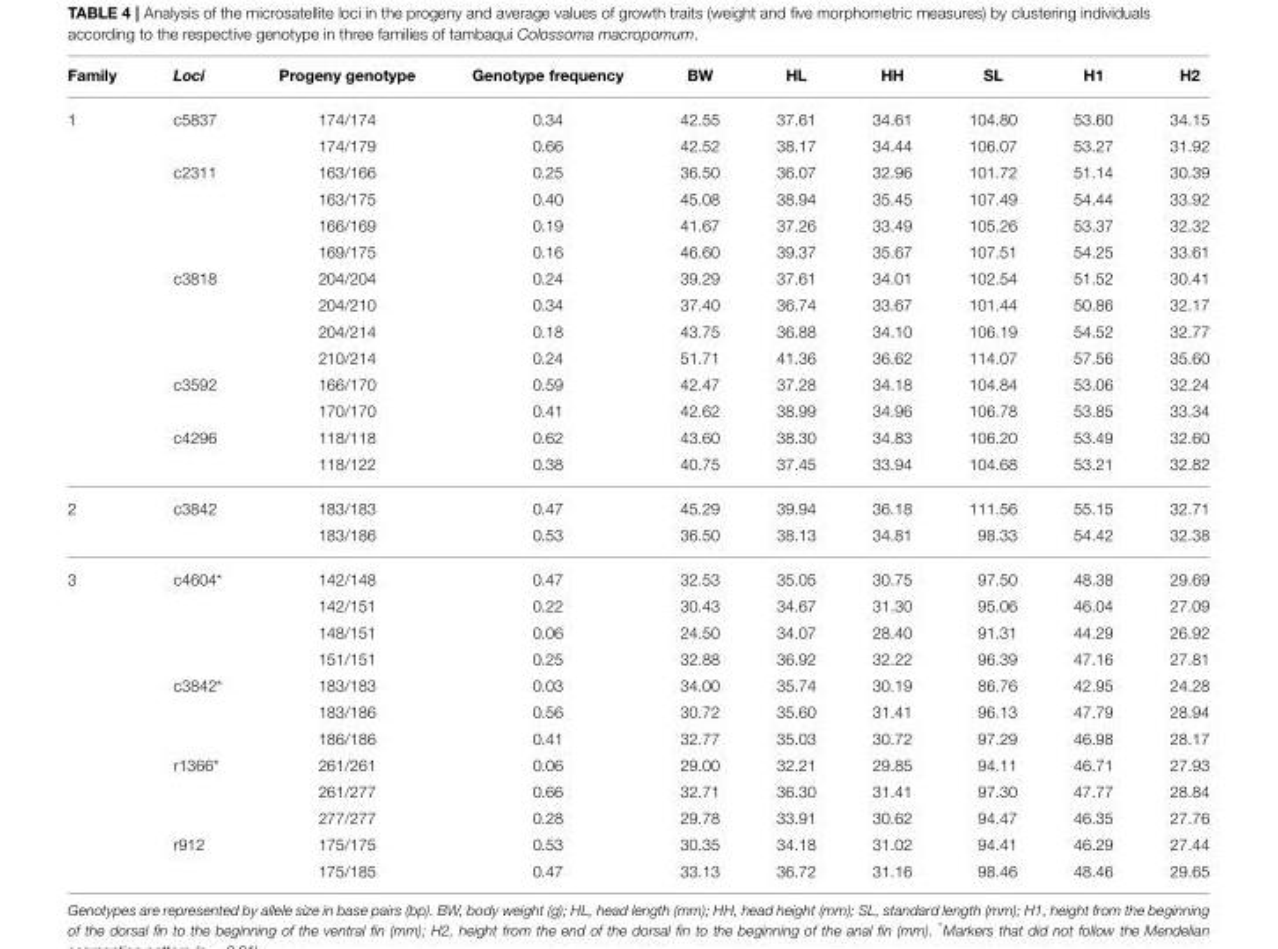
<table><thead><tr><td>Family</td><td>Loci</td><td>Progeny genotype</td><td>Genotype frequency</td><td>BW</td><td>HL</td><td>HH</td><td>SL</td><td>H1</td><td>H2</td></tr></thead><tbody><tr><td rowspan="14">1</td><td>c5837</td><td>174/174</td><td>0.34</td><td>42.55</td><td>37.61</td><td>34.61</td><td>104.80</td><td>53.60</td><td>34.15</td></tr><tr><td></td><td>174/179</td><td>0.66</td><td>42.52</td><td>38.17</td><td>34.44</td><td>106.07</td><td>53.27</td><td>31.92</td></tr><tr><td>c2311</td><td>163/166</td><td>0.25</td><td>36.50</td><td>36.07</td><td>32.96</td><td>101.72</td><td>51.14</td><td>30.39</td></tr><tr><td></td><td>163/175</td><td>0.40</td><td>45.08</td><td>38.94</td><td>35.45</td><td>107.49</td><td>54.44</td><td>33.92</td></tr><tr><td></td><td>166/169</td><td>0.19</td><td>41.67</td><td>37.26</td><td>33.49</td><td>105.26</td><td>53.37</td><td>32.32</td></tr><tr><td></td><td>169/175</td><td>0.16</td><td>46.60</td><td>39.37</td><td>35.67</td><td>107.51</td><td>54.25</td><td>33.61</td></tr><tr><td>c3818</td><td>204/204</td><td>0.24</td><td>39.29</td><td>37.61</td><td>34.01</td><td>102.54</td><td>51.52</td><td>30.41</td></tr><tr><td></td><td>204/210</td><td>0.34</td><td>37.40</td><td>36.74</td><td>33.67</td><td>101.44</td><td>50.86</td><td>32.17</td></tr><tr><td></td><td>204/214</td><td>0.18</td><td>43.75</td><td>36.88</td><td>34.10</td><td>106.19</td><td>54.52</td><td>32.77</td></tr><tr><td></td><td>210/214</td><td>0.24</td><td>51.71</td><td>41.36</td><td>36.62</td><td>114.07</td><td>57.56</td><td>35.60</td></tr><tr><td>c3592</td><td>166/170</td><td>0.59</td><td>42.47</td><td>37.28</td><td>34.18</td><td>104.84</td><td>53.06</td><td>32.24</td></tr><tr><td></td><td>170/170</td><td>0.41</td><td>42.62</td><td>38.99</td><td>34.96</td><td>106.78</td><td>53.85</td><td>33.34</td></tr><tr><td>c4296</td><td>118/118</td><td>0.62</td><td>43.60</td><td>38.30</td><td>34.83</td><td>106.20</td><td>53.49</td><td>32.60</td></tr><tr><td></td><td>118/122</td><td>0.38</td><td>40.75</td><td>37.45</td><td>33.94</td><td>104.68</td><td>53.21</td><td>32.82</td></tr><tr><td rowspan="2">2</td><td>c3842</td><td>183/183</td><td>0.47</td><td>45.29</td><td>39.94</td><td>36.18</td><td>111.56</td><td>55.15</td><td>32.71</td></tr><tr><td></td><td>183/186</td><td>0.53</td><td>36.50</td><td>38.13</td><td>34.81</td><td>98.33</td><td>54.42</td><td>32.38</td></tr><tr><td rowspan="12">3</td><td>c4604*</td><td>142/148</td><td>0.47</td><td>32.53</td><td>35.05</td><td>30.75</td><td>97.50</td><td>48.38</td><td>29.69</td></tr><tr><td></td><td>142/151</td><td>0.22</td><td>30.43</td><td>34.67</td><td>31.30</td><td>95.06</td><td>46.04</td><td>27.09</td></tr><tr><td></td><td>148/151</td><td>0.06</td><td>24.50</td><td>34.07</td><td>28.40</td><td>91.31</td><td>44.29</td><td>26.92</td></tr><tr><td></td><td>151/151</td><td>0.25</td><td>32.88</td><td>36.92</td><td>32.22</td><td>96.39</td><td>47.16</td><td>27.81</td></tr><tr><td>c3842*</td><td>183/183</td><td>0.03</td><td>34.00</td><td>35.74</td><td>30.19</td><td>86.76</td><td>42.95</td><td>24.28</td></tr><tr><td></td><td>183/186</td><td>0.56</td><td>30.72</td><td>35.60</td><td>31.41</td><td>96.13</td><td>47.79</td><td>28.94</td></tr><tr><td></td><td>186/186</td><td>0.41</td><td>32.77</td><td>35.03</td><td>30.72</td><td>97.29</td><td>46.98</td><td>28.17</td></tr><tr><td>r1366*</td><td>261/261</td><td>0.06</td><td>29.00</td><td>32.21</td><td>29.85</td><td>94.11</td><td>46.71</td><td>27.93</td></tr><tr><td></td><td>261/277</td><td>0.66</td><td>32.71</td><td>36.30</td><td>31.41</td><td>97.30</td><td>47.77</td><td>28.84</td></tr><tr><td></td><td>277/277</td><td>0.28</td><td>29.78</td><td>33.91</td><td>30.62</td><td>94.47</td><td>46.35</td><td>27.76</td></tr><tr><td>r912</td><td>175/175</td><td>0.53</td><td>30.35</td><td>34.18</td><td>31.02</td><td>94.41</td><td>46.29</td><td>27.44</td></tr><tr><td></td><td>175/185</td><td>0.47</td><td>33.13</td><td>36.72</td><td>31.16</td><td>98.46</td><td>48.46</td><td>29.65</td></tr></tbody></table>